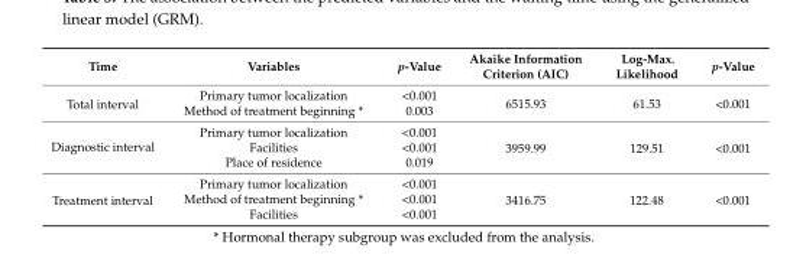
<table><thead><tr><td>Time</td><td>Variables</td><td>p-Value</td><td>Akaike Information Criterion (AIC)</td><td>Log-Max. Likelihood</td><td>p-Value</td></tr></thead><tbody><tr><td rowspan="2">Total interval</td><td>Primary tumor localization</td><td>&lt;0.001</td><td rowspan="2">6515.93</td><td rowspan="2">61.53</td><td rowspan="2">&lt;0.001</td></tr><tr><td>Method of treatment beginning *</td><td>0.003</td></tr><tr><td rowspan="3">Diagnostic interval</td><td>Primary tumor localization</td><td>&lt;0.001</td><td rowspan="3">3959.99</td><td rowspan="3">129.51</td><td rowspan="3">&lt;0.001</td></tr><tr><td>Facilities</td><td>&lt;0.001</td></tr><tr><td>Place of residence</td><td>0.019</td></tr><tr><td rowspan="3">Treatment interval</td><td>Primary tumor localization</td><td>&lt;0.001</td><td rowspan="3">3416.75</td><td rowspan="3">122.48</td><td rowspan="3">&lt;0.001</td></tr><tr><td>Method of treatment beginning *</td><td>&lt;0.001</td></tr><tr><td>Facilities</td><td>&lt;0.001</td></tr></tbody></table>